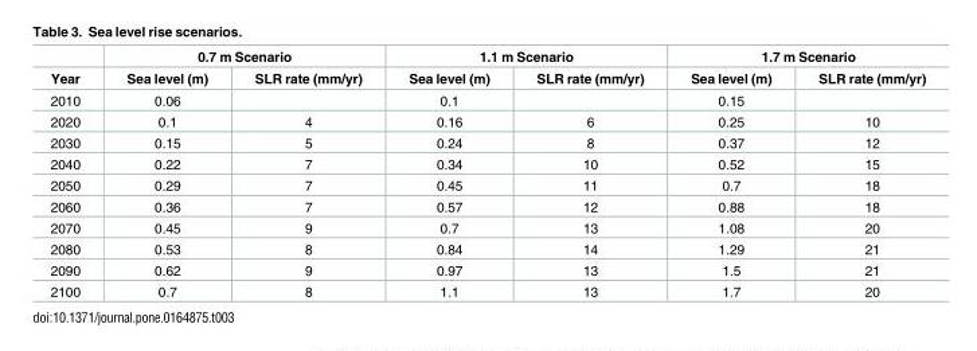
<table><thead><tr><td rowspan="2">Year</td><td colspan="2">0.7 m Scenario</td><td colspan="2">1.1 m Scenario</td><td colspan="2">1.7 m Scenario</td></tr><tr><td>Sea level (m)</td><td>SLR rate (mm/yr)</td><td>Sea level (m)</td><td>SLR rate (mm/yr)</td><td>Sea level (m)</td><td>SLR rate (mm/yr)</td></tr></thead><tbody><tr><td>2010</td><td>0.06</td><td></td><td>0.1</td><td></td><td>0.15</td><td></td></tr><tr><td>2020</td><td>0.1</td><td>4</td><td>0.16</td><td>6</td><td>0.25</td><td>10</td></tr><tr><td>2030</td><td>0.15</td><td>5</td><td>0.24</td><td>8</td><td>0.37</td><td>12</td></tr><tr><td>2040</td><td>0.22</td><td>7</td><td>0.34</td><td>10</td><td>0.52</td><td>15</td></tr><tr><td>2050</td><td>0.29</td><td>7</td><td>0.45</td><td>11</td><td>0.7</td><td>18</td></tr><tr><td>2060</td><td>0.36</td><td>7</td><td>0.57</td><td>12</td><td>0.88</td><td>18</td></tr><tr><td>2070</td><td>0.45</td><td>9</td><td>0.7</td><td>13</td><td>1.08</td><td>20</td></tr><tr><td>2080</td><td>0.53</td><td>8</td><td>0.84</td><td>14</td><td>1.29</td><td>21</td></tr><tr><td>2090</td><td>0.62</td><td>9</td><td>0.97</td><td>13</td><td>1.5</td><td>21</td></tr><tr><td>2100</td><td>0.7</td><td>8</td><td>1.1</td><td>13</td><td>1.7</td><td>20</td></tr></tbody></table>